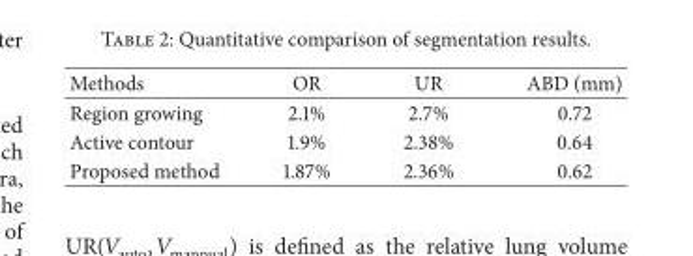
<table><thead><tr><td>Methods</td><td>OR</td><td>UR</td><td>ABD (mm)</td></tr></thead><tbody><tr><td>Region growing</td><td>2.1%</td><td>2.7%</td><td>0.72</td></tr><tr><td>Active contour</td><td>1.9%</td><td>2.38%</td><td>0.64</td></tr><tr><td>Proposed method</td><td>1.87%</td><td>2.36%</td><td>0.62</td></tr></tbody></table>